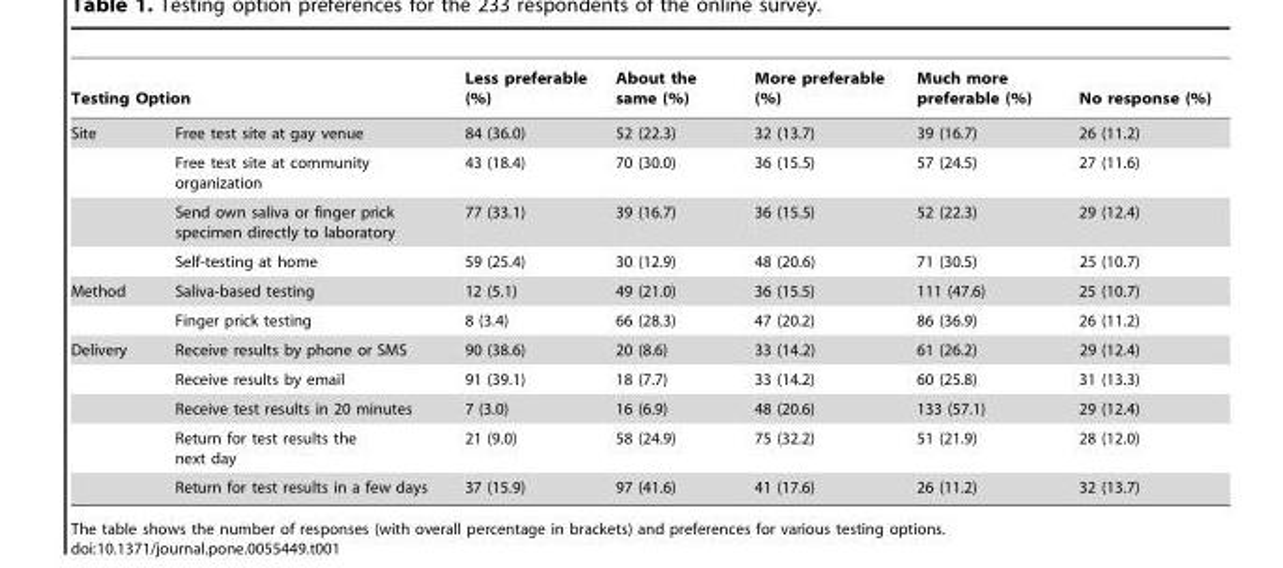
<table><thead><tr><td colspan="2">Testing Option</td><td rowspan="2">Less preferable (%) 84 (36.0)</td><td rowspan="2">About the same (%) 52 (22.3)</td><td rowspan="2">More preferable (%) 32 (13.7)</td><td rowspan="2">Much more preferable (%) 39 (16.7)</td><td rowspan="2">No response (%) 26 (11.2)</td></tr><tr><td>Site</td><td>Free test site at gay venue</td></tr></thead><tbody><tr><td></td><td>Free test site at community organization</td><td>43 (18.4)</td><td>70 (30.0)</td><td>36 (15.5)</td><td>57 (24.5)</td><td>27 (11.6)</td></tr><tr><td></td><td>Send own saliva or finger prick specimen directly to laboratory</td><td>77 (33.1)</td><td>39 (16.7)</td><td>36 (15.5)</td><td>52 (22.3)</td><td>29 (12.4)</td></tr><tr><td></td><td>Self-testing at home</td><td>59 (25.4)</td><td>30 (12.9)</td><td>48 (20.6)</td><td>71 (30.5)</td><td>25 (10.7)</td></tr><tr><td rowspan="2">Method</td><td>Saliva-based testing</td><td>12 (5.1)</td><td>49 (21.0)</td><td>36 (15.5)</td><td>111 (47.6)</td><td>25 (10.7)</td></tr><tr><td>Finger prick testing</td><td>8 (3.4)</td><td>66 (28.3)</td><td>47 (20.2)</td><td>86 (36.9)</td><td>26 (11.2)</td></tr><tr><td rowspan="5">Delivery</td><td>Receive results by phone or SMS</td><td>90 (38.6)</td><td>20 (8.6)</td><td>33 (14.2)</td><td>61 (26.2)</td><td>29 (12.4)</td></tr><tr><td>Receive results by email</td><td>91 (39.1)</td><td>18 (7.7)</td><td>33 (14.2)</td><td>60 (25.8)</td><td>31 (13.3)</td></tr><tr><td>Receive test results in 20 minutes</td><td>7 (3.0)</td><td>16 (6.9)</td><td>48 (20.6)</td><td>133 (57.1)</td><td>29 (12.4)</td></tr><tr><td>Return for test results the next day</td><td>21 (9.0)</td><td>58 (24.9)</td><td>75 (32.2)</td><td>51 (21.9)</td><td>28 (12.0)</td></tr><tr><td>Return for test results in a few days</td><td>37 (15.9)</td><td>97 (41.6)</td><td>41 (17.6)</td><td>26 (11.2)</td><td>32 (13.7)</td></tr></tbody></table>